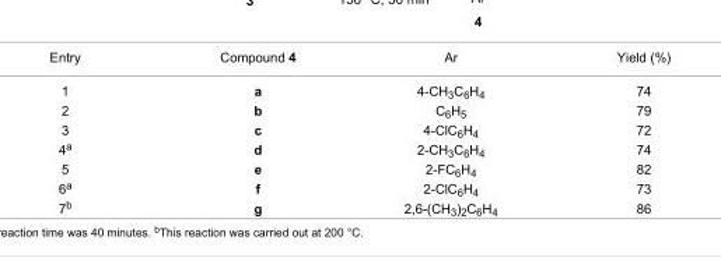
<table><tbody><tr><td>Entry</td><td>Compound 4</td><td>Ar</td><td>Yield (%)</td></tr><tr><td>1</td><td>a</td><td>4-CH<sub>3</sub>C<sub>6</sub>H<sub>4</sub></td><td>74</td></tr><tr><td>2</td><td>b</td><td>C<sub>6</sub>H<sub>5</sub></td><td>79</td></tr><tr><td>3</td><td>c</td><td>4-ClC<sub>6</sub>H<sub>4</sub></td><td>72</td></tr><tr><td>4<sup>a</sup></td><td>d</td><td>2-CH<sub>3</sub>C<sub>6</sub>H<sub>4</sub></td><td>74</td></tr><tr><td>5</td><td>e</td><td>2-FC<sub>6</sub>H<sub>4</sub></td><td>82</td></tr><tr><td>6<sup>a</sup></td><td>f</td><td>2-ClC<sub>6</sub>H<sub>4</sub></td><td>73</td></tr><tr><td>7<sup>b</sup></td><td>g</td><td>2,6-(CH<sub>3</sub>)<sub>2</sub>C<sub>6</sub>H<sub>4</sub></td><td>86</td></tr></tbody></table>